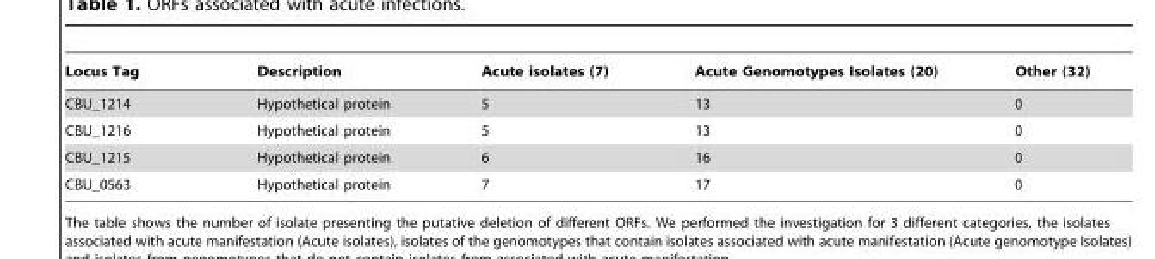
<table><thead><tr><td>Locus Tag</td><td>Description</td><td>Acute isolates (7)</td><td>Acute Genomotypes Isolates (20)</td><td>Other (32)</td></tr></thead><tbody><tr><td>CBU_1214</td><td>Hypothetical protein</td><td>5</td><td>13</td><td>0</td></tr><tr><td>CBU_1216</td><td>Hypothetical protein</td><td>5</td><td>13</td><td>0</td></tr><tr><td>CBU_1215</td><td>Hypothetical protein</td><td>6</td><td>16</td><td>0</td></tr><tr><td>CBU_0563</td><td>Hypothetical protein</td><td>7</td><td>17</td><td>0</td></tr></tbody></table>